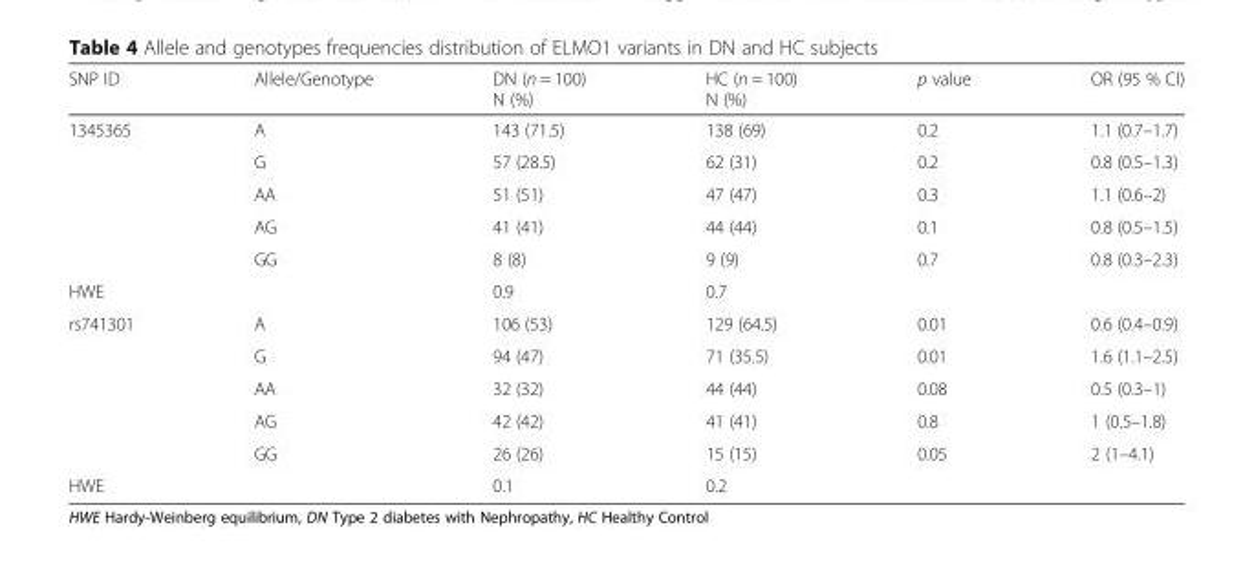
<table><thead><tr><td>SNP ID</td><td>Allele/Genotype</td><td>DN (n = 100) N (%)</td><td>HC (n = 100) N (%)</td><td>p value</td><td>OR (95 % CI)</td></tr></thead><tbody><tr><td rowspan="5">1345365</td><td>A</td><td>143 (71.5)</td><td>138 (69)</td><td>0.2</td><td>1.1 (0.7–1.7)</td></tr><tr><td>G</td><td>57 (28.5)</td><td>62 (31)</td><td>0.2</td><td>0.8 (0.5–1.3)</td></tr><tr><td>AA</td><td>51 (51)</td><td>47 (47)</td><td>0.3</td><td>1.1 (0.6–2)</td></tr><tr><td>AG</td><td>41 (41)</td><td>44 (44)</td><td>0.1</td><td>0.8 (0.5–1.5)</td></tr><tr><td>GG</td><td>8 (8)</td><td>9 (9)</td><td>0.7</td><td>0.8 (0.3–2.3)</td></tr><tr><td>HWE</td><td></td><td>0.9</td><td>0.7</td><td></td><td></td></tr><tr><td rowspan="5">rs741301</td><td>A</td><td>106 (53)</td><td>129 (64.5)</td><td>0.01</td><td>0.6 (0.4–0.9)</td></tr><tr><td>G</td><td>94 (47)</td><td>71 (35.5)</td><td>0.01</td><td>1.6 (1.1–2.5)</td></tr><tr><td>AA</td><td>32 (32)</td><td>44 (44)</td><td>0.08</td><td>0.5 (0.3–1)</td></tr><tr><td>AG</td><td>42 (42)</td><td>41 (41)</td><td>0.8</td><td>1 (0.5–1.8)</td></tr><tr><td>GG</td><td>26 (26)</td><td>15 (15)</td><td>0.05</td><td>2 (1–4.1)</td></tr><tr><td>HWE</td><td></td><td>0.1</td><td>0.2</td><td></td><td></td></tr></tbody></table>